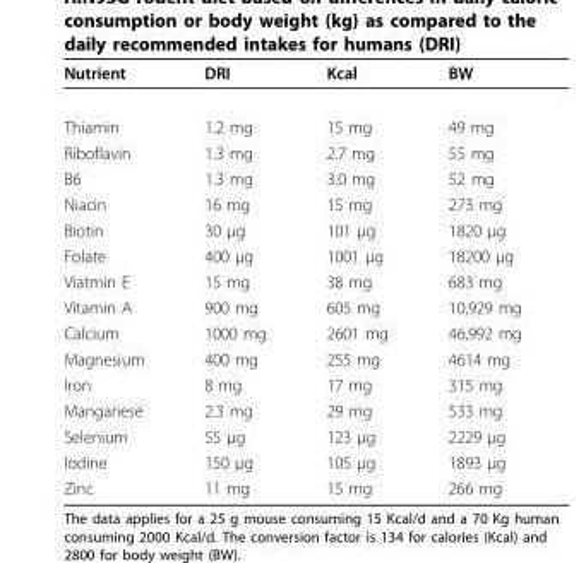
<table><thead><tr><td>Nutrient</td><td>DRI</td><td>Kcal</td><td>BW</td></tr></thead><tbody><tr><td>Thiamin</td><td>1.2 mg</td><td>15 mg</td><td>49 mg</td></tr><tr><td>Riboflavin</td><td>1.3 mg</td><td>2.7 mg</td><td>55 mg</td></tr><tr><td>B6</td><td>1.3 mg</td><td>3.0 mg</td><td>52 mg</td></tr><tr><td>Niacin</td><td>16 mg</td><td>15 mg</td><td>273 mg</td></tr><tr><td>Biotin</td><td>30 μg</td><td>101 μg</td><td>1820 μg</td></tr><tr><td>Folate</td><td>400 μg</td><td>1001 μg</td><td>18200 μg</td></tr><tr><td>Viatmin E</td><td>15 mg</td><td>38 mg</td><td>683 mg</td></tr><tr><td>Vitamin A</td><td>900 mg</td><td>605 mg</td><td>10,929 mg</td></tr><tr><td>Calcium</td><td>1000 mg</td><td>2601 mg</td><td>46,992 mg</td></tr><tr><td>Magnesium</td><td>400 mg</td><td>255 mg</td><td>4614 mg</td></tr><tr><td>Iron</td><td>8 mg</td><td>17 mg</td><td>315 mg</td></tr><tr><td>Manganese</td><td>2.3 mg</td><td>29 mg</td><td>533 mg</td></tr><tr><td>Selenium</td><td>55 μg</td><td>123 μg</td><td>2229 μg</td></tr><tr><td>Iodine</td><td>150 μg</td><td>105 μg</td><td>1893 μg</td></tr><tr><td>Zinc</td><td>11 mg</td><td>15 mg</td><td>266 mg</td></tr></tbody></table>